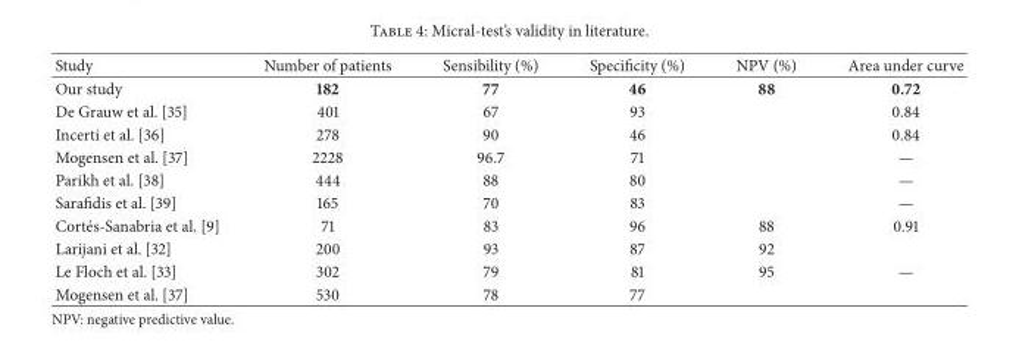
<table><thead><tr><td>Study</td><td>Number of patients</td><td>Sensibility (%)</td><td>Specificity (%)</td><td>NPV (%)</td><td>Area under curve</td></tr></thead><tbody><tr><td>Our study</td><td>182</td><td>77</td><td>46</td><td>88</td><td>0.72</td></tr><tr><td>De Grauw et al. [35]</td><td>401</td><td>67</td><td>93</td><td></td><td>0.84</td></tr><tr><td>Incerti et al. [36]</td><td>278</td><td>90</td><td>46</td><td></td><td>0.84</td></tr><tr><td>Mogensen et al. [37]</td><td>2228</td><td>96.7</td><td>71</td><td></td><td>—</td></tr><tr><td>Parikh et al. [38]</td><td>444</td><td>88</td><td>80</td><td></td><td>—</td></tr><tr><td>Sarafidis et al. [39]</td><td>165</td><td>70</td><td>83</td><td></td><td>—</td></tr><tr><td>Cort´es-Sanabria et al. [9]</td><td>71</td><td>83</td><td>96</td><td>88</td><td>0.91</td></tr><tr><td>Larijani et al. [32]</td><td>200</td><td>93</td><td>87</td><td>92</td><td></td></tr><tr><td>Le Floch et al. [33]</td><td>302</td><td>79</td><td>81</td><td>95</td><td>—</td></tr><tr><td>Mogensen et al. [37]</td><td>530</td><td>78</td><td>77</td><td></td><td></td></tr></tbody></table>